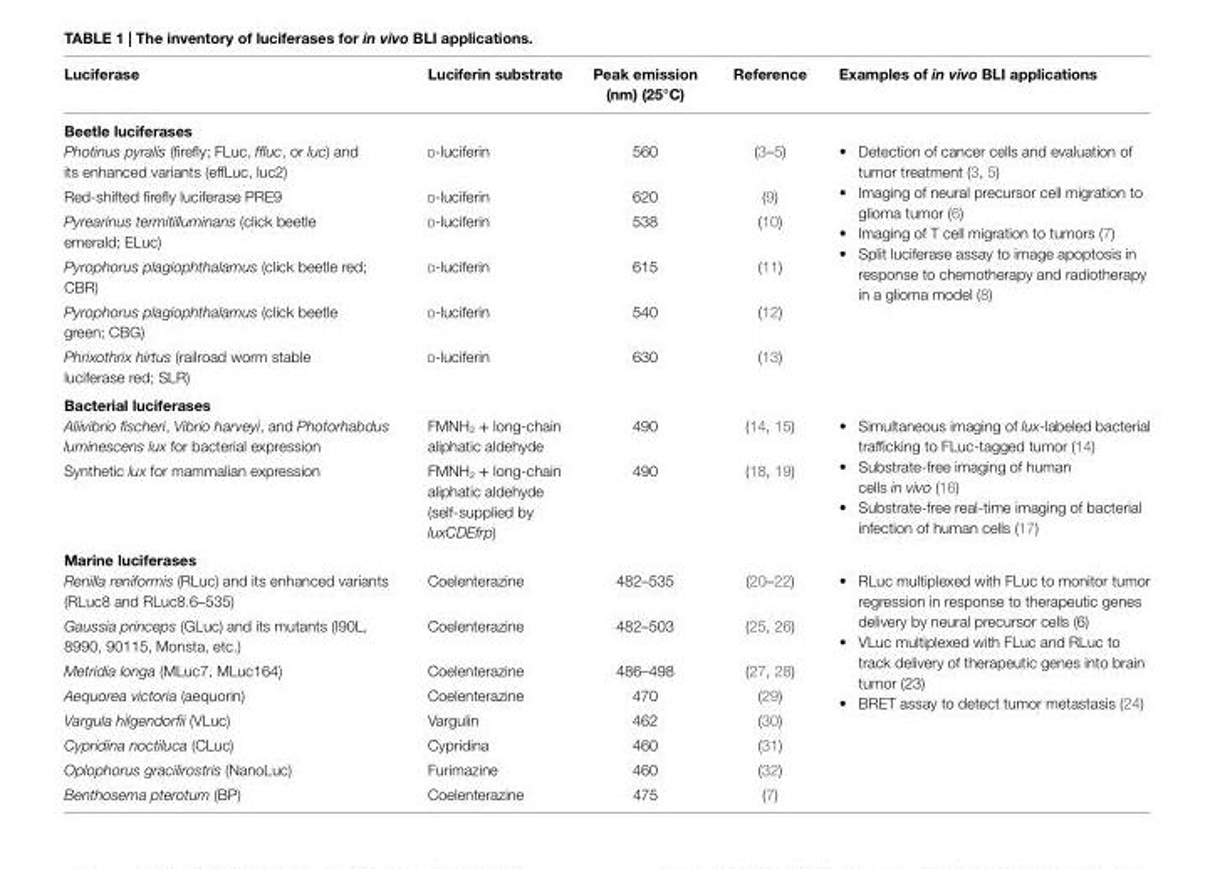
<table><thead><tr><td>Luciferase</td><td>Luciferin substrate</td><td>Peak emission (nm) (25°C)</td><td>Reference</td><td>examples of in vivo BLi applications</td></tr></thead><tbody><tr><td colspan="5">Beetle luciferases</td></tr><tr><td>Photinus pyralis (firefly; FLuc, ffluc, or luc) and its enhanced variants (effLuc, luc2)</td><td>d-luciferin</td><td>560</td><td>(3–5)</td><td rowspan="6">• Detection of cancer cells and evaluation of tumor treatment (3, 5) • Imaging of neural precursor cell migration to glioma tumor (6) • Imaging of T cell migration to tumors (7) • Split luciferase assay to image apoptosis in response to chemotherapy and radiotherapy in a glioma model (8)</td></tr><tr><td>Red-shifted firefly luciferase PRE9</td><td>d-luciferin</td><td>620</td><td>(9)</td></tr><tr><td>Pyrearinus termitilluminans (click beetle emerald; ELuc)</td><td>d-luciferin</td><td>538</td><td>(10)</td></tr><tr><td>Pyrophorus plagiophthalamus (click beetle red; CBR)</td><td>d-luciferin</td><td>615</td><td>(11)</td></tr><tr><td>Pyrophorus plagiophthalamus (click beetle green; CBG)</td><td>d-luciferin</td><td>540</td><td>(12)</td></tr><tr><td>Phrixothrix hirtus (railroad worm stable luciferase red; SLR)</td><td>d-luciferin</td><td>630</td><td>(13)</td></tr><tr><td colspan="5">Bacterial luciferases</td></tr><tr><td>Aliivibrio fischeri, Vibrio harveyi, and Photorhabdus luminescens lux for bacterial expression</td><td>FMNH<sub>2</sub> + long-chain aliphatic aldehyde</td><td>490</td><td>(14, 15)</td><td rowspan="2">• Simultaneous imaging of lux-labeled bacterial trafficking to FLuc-tagged tumor (14) • Substrate-free imaging of human cells in vivo (16) • Substrate-free real-time imaging of bacterial infection of human cells (17)</td></tr><tr><td>Synthetic lux for mammalian expression</td><td>FMNH<sub>2</sub> + long-chain aliphatic aldehyde (self-supplied by luxCDEfrp)</td><td>490</td><td>(18, 19)</td></tr><tr><td colspan="5">Marine luciferases</td></tr><tr><td>Renilla reniformis (RLuc) and its enhanced variants (RLuc8 and RLuc8.6–535)</td><td>Coelenterazine</td><td>482–535</td><td>(20–22)</td><td rowspan="8">• RLuc multiplexed with FLuc to monitor tumor regression in response to therapeutic genes delivery by neural precursor cells (6) • VLuc multiplexed with FLuc and RLuc to track delivery of therapeutic genes into brain tumor (23) • BRET assay to detect tumor metastasis (24)</td></tr><tr><td>Gaussia princeps (GLuc) and its mutants (I90L, 8990, 90115, Monsta, etc.)</td><td>Coelenterazine</td><td>482–503</td><td>(25, 26)</td></tr><tr><td>Metridia longa (MLuc7, MLuc164)</td><td>Coelenterazine</td><td>486–498</td><td>(27, 28)</td></tr><tr><td>Aequorea victoria (aequorin)</td><td>Coelenterazine</td><td>470</td><td>(29)</td></tr><tr><td>Vargula hilgendorfii (VLuc)</td><td>Vargulin</td><td>462</td><td>(30)</td></tr><tr><td>Cypridina noctiluca (CLuc)</td><td>Cypridina</td><td>460</td><td>(31)</td></tr><tr><td>Oplophorus gracilirostris (NanoLuc)</td><td>Furimazine</td><td>460</td><td>(32)</td></tr><tr><td>Benthosema pterotum (BP)</td><td>Coelenterazine</td><td>475</td><td>(7)</td></tr></tbody></table>